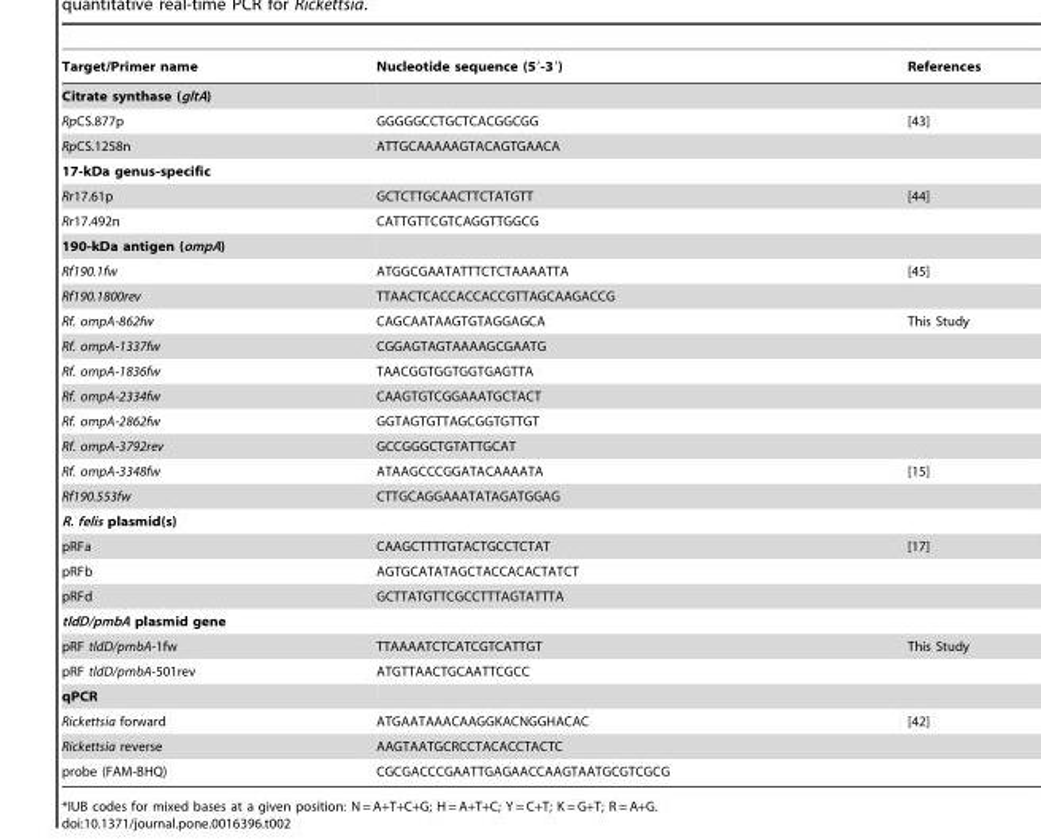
<table><thead><tr><td>Target/Primer name</td><td>Nucleotide sequence (5′-3′)</td><td>References</td></tr></thead><tbody><tr><td colspan="3">Citrate synthase (gltA)</td></tr><tr><td>RpCS.877p</td><td>GGGGGCCTGCTCACGGCGG</td><td>[43]</td></tr><tr><td>RpCS.1258n</td><td>ATTGCAAAAAGTACAGTGAACA</td><td></td></tr><tr><td colspan="3">17-kDa genus-specific</td></tr><tr><td>Rr17.61p</td><td>GCTCTTGCAACTTCTATGTT</td><td>[44]</td></tr><tr><td>Rr17.492n</td><td>CATTGTTCGTCAGGTTGGCG</td><td></td></tr><tr><td colspan="3">190-kDa antigen (ompA)</td></tr><tr><td>Rf190.1fw</td><td>ATGGCGAATATTTCTCTAAAATTA</td><td>[45]</td></tr><tr><td>Rf190.1800rev</td><td>TTAACTCACCACCACCGTTAGCAAGACCG</td><td></td></tr><tr><td>Rf. ompA-862fw</td><td>CAGCAATAAGTGTAGGAGCA</td><td>This Study</td></tr><tr><td>Rf. ompA-1337fw</td><td>CGGAGTAGTAAAAGCGAATG</td><td></td></tr><tr><td>Rf. ompA-1836fw</td><td>TAACGGTGGTGGTGAGTTA</td><td></td></tr><tr><td>Rf. ompA-2334fw</td><td>CAAGTGTCGGAAATGCTACT</td><td></td></tr><tr><td>Rf. ompA-2862fw</td><td>GGTAGTGTTAGCGGTGTTGT</td><td></td></tr><tr><td>Rf. ompA-3792rev</td><td>GCCGGGCTGTATTGCAT</td><td></td></tr><tr><td>Rf. ompA-3348fw</td><td>ATAAGCCCGGATACAAAATA</td><td>[15]</td></tr><tr><td>Rf190.553fw</td><td>CTTGCAGGAAATATAGATGGAG</td><td></td></tr><tr><td colspan="3">R. felis plasmid(s)</td></tr><tr><td>pRFa</td><td>CAAGCTTTTGTACTGCCTCTAT</td><td>[17]</td></tr><tr><td>pRFb</td><td>AGTGCATATAGCTACCACACTATCT</td><td></td></tr><tr><td>pRFd</td><td>GCTTATGTTCGCCTTTAGTATTTA</td><td></td></tr><tr><td colspan="3">tldD/pmbA plasmid gene</td></tr><tr><td>pRF tldD/pmbA-1fw</td><td>TTAAAATCTCATCGTCATTGT</td><td>This Study</td></tr><tr><td>pRF tldD/pmbA-501rev</td><td>ATGTTAACTGCAATTCGCC</td><td></td></tr><tr><td colspan="3">qPCR</td></tr><tr><td>Rickettsia forward</td><td>ATGAATAAACAAGGKACNGGHACAC</td><td>[42]</td></tr><tr><td>Rickettsia reverse</td><td>AAGTAATGCRCCTACACCTACTC</td><td></td></tr><tr><td>probe (FAM-BHQ)</td><td>CGCGACCCGAATTGAGAACCAAGTAATGCGTCGCG</td><td></td></tr></tbody></table>